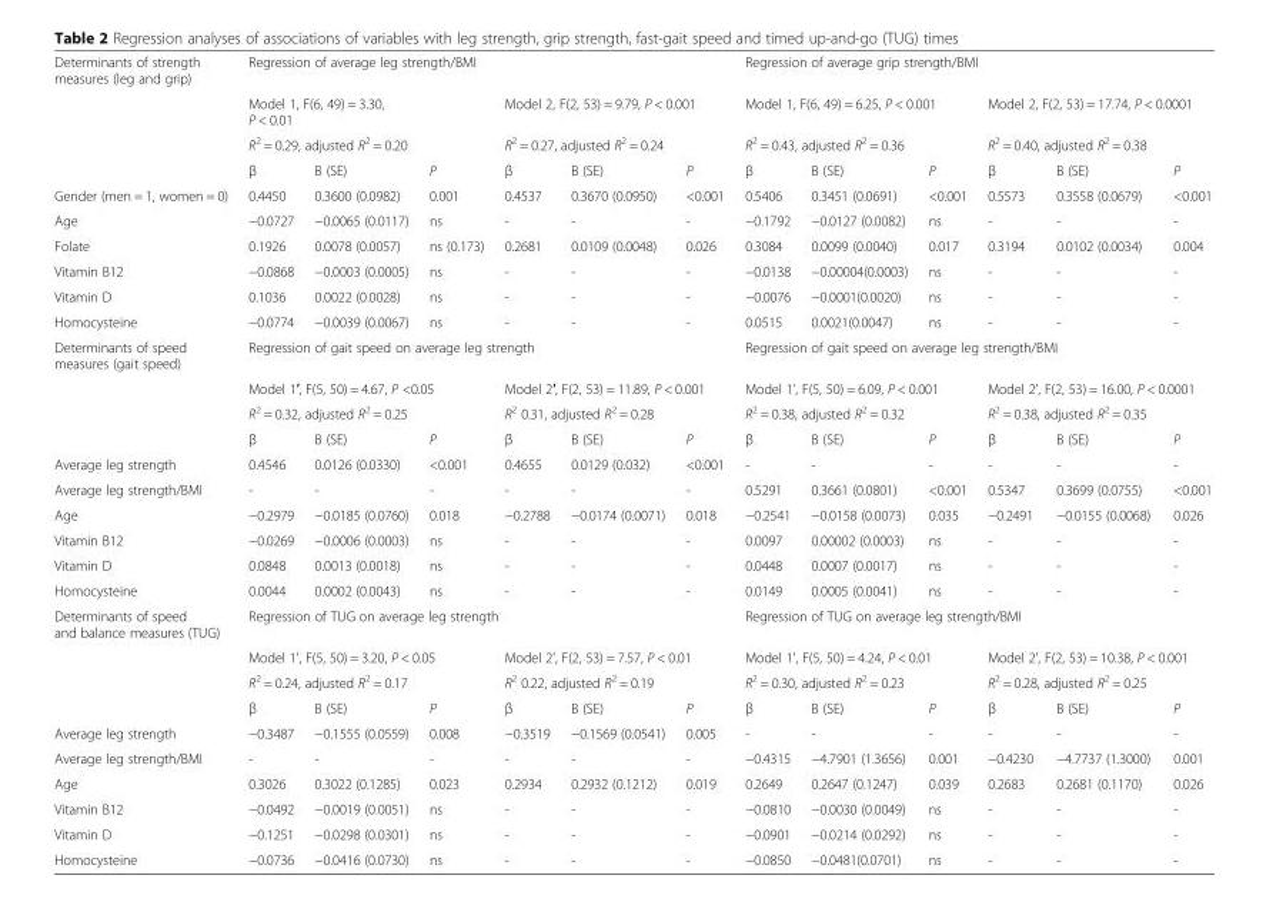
<table><tbody><tr><td rowspan="4">Determinants of strength measures (leg and grip)</td><td colspan="6">Regression of average leg strength/BMI</td><td colspan="6">Regression of average grip strength/BMI</td></tr><tr><td colspan="3">Model 1, F(6, 49) = 3.30, P &lt; 0.01</td><td colspan="3">Model 2, F(2, 53) = 9.79, P &lt; 0.001</td><td colspan="3">Model 1, F(6, 49) = 6.25, P &lt; 0.001</td><td colspan="3">Model 2, F(2, 53) = 17.74, P &lt; 0.0001</td></tr><tr><td colspan="3">R<sup>2</sup> = 0.29, adjusted R<sup>2</sup> = 0.20</td><td colspan="3">R<sup>2</sup> = 0.27, adjusted R<sup>2</sup> = 0.24</td><td colspan="3">R<sup>2</sup> = 0.43, adjusted R<sup>2</sup> = 0.36</td><td colspan="3">R<sup>2</sup> = 0.40, adjusted R<sup>2</sup> = 0.38</td></tr><tr><td>β</td><td>B (SE)</td><td>P</td><td>β</td><td>B (SE)</td><td>P</td><td>β</td><td>B (SE)</td><td>P</td><td>β</td><td>B (SE)</td><td>P</td></tr><tr><td>Gender (men = 1, women = 0)</td><td>0.4450</td><td>0.3600 (0.0982)</td><td>0.001</td><td>0.4537</td><td>0.3670 (0.0950)</td><td>&lt;0.001</td><td>0.5406</td><td>0.3451 (0.0691)</td><td>&lt;0.001</td><td>0.5573</td><td>0.3558 (0.0679)</td><td>&lt;0.001</td></tr><tr><td>Age</td><td>−0.0727</td><td>−0.0065 (0.0117)</td><td>ns</td><td>-</td><td>-</td><td>-</td><td>−0.1792</td><td>−0.0127 (0.0082)</td><td>ns</td><td>-</td><td>-</td><td>-</td></tr><tr><td>Folate</td><td>0.1926</td><td>0.0078 (0.0057)</td><td>ns (0.173)</td><td>0.2681</td><td>0.0109 (0.0048)</td><td>0.026</td><td>0.3084</td><td>0.0099 (0.0040)</td><td>0.017</td><td>0.3194</td><td>0.0102 (0.0034)</td><td>0.004</td></tr><tr><td>Vitamin B12</td><td>−0.0868</td><td>−0.0003 (0.0005)</td><td>ns</td><td>-</td><td>-</td><td>-</td><td>−0.0138</td><td>−0.00004(0.0003)</td><td>ns</td><td>-</td><td>-</td><td>-</td></tr><tr><td>Vitamin D</td><td>0.1036</td><td>0.0022 (0.0028)</td><td>ns</td><td>-</td><td>-</td><td>-</td><td>−0.0076</td><td>−0.0001(0.0020)</td><td>ns</td><td>-</td><td>-</td><td>-</td></tr><tr><td>Homocysteine</td><td>−0.0774</td><td>−0.0039 (0.0067)</td><td>ns</td><td>-</td><td>-</td><td>-</td><td>0.0515</td><td>0.0021(0.0047)</td><td>ns</td><td>-</td><td>-</td><td>-</td></tr><tr><td rowspan="4">Determinants of speed measures (gait speed)</td><td colspan="6">Regression of gait speed on average leg strength</td><td colspan="6">Regression of gait speed on average leg strength/BMI</td></tr><tr><td colspan="3">Model 1′, F(5, 50) = 4.67, P &lt;0.05</td><td colspan="3">Model 2′, F(2, 53) = 11.89, P &lt; 0.001</td><td colspan="3">Model 1’, F(5, 50) = 6.09, P &lt; 0.001</td><td colspan="3">Model 2’, F(2, 53) = 16.00, P &lt; 0.0001</td></tr><tr><td colspan="3">R<sup>2</sup> = 0.32, adjusted R<sup>2</sup> = 0.25</td><td colspan="3">R<sup>2</sup> 0.31, adjusted R<sup>2</sup> = 0.28</td><td colspan="3">R<sup>2</sup> = 0.38, adjusted R<sup>2</sup> = 0.32</td><td colspan="3">R<sup>2</sup> = 0.38, adjusted R<sup>2</sup> = 0.35</td></tr><tr><td>β</td><td>B (SE)</td><td>P</td><td>β</td><td>B (SE)</td><td>P</td><td>β</td><td>B (SE)</td><td>P</td><td>β</td><td>B (SE)</td><td>P</td></tr><tr><td>Average leg strength</td><td>0.4546</td><td>0.0126 (0.0330)</td><td>&lt;0.001</td><td>0.4655</td><td>0.0129 (0.032)</td><td>&lt;0.001</td><td>-</td><td>-</td><td>-</td><td>-</td><td>-</td><td>-</td></tr><tr><td>Average leg strength/BMI</td><td>-</td><td>-</td><td>-</td><td>-</td><td>-</td><td>-</td><td>0.5291</td><td>0.3661 (0.0801)</td><td>&lt;0.001</td><td>0.5347</td><td>0.3699 (0.0755)</td><td>&lt;0.001</td></tr><tr><td>Age</td><td>−0.2979</td><td>−0.0185 (0.0760)</td><td>0.018</td><td>−0.2788</td><td>−0.0174 (0.0071)</td><td>0.018</td><td>−0.2541</td><td>−0.0158 (0.0073)</td><td>0.035</td><td>−0.2491</td><td>−0.0155 (0.0068)</td><td>0.026</td></tr><tr><td>Vitamin B12</td><td>−0.0269</td><td>−0.0006 (0.0003)</td><td>ns</td><td>-</td><td>-</td><td>-</td><td>0.0097</td><td>0.00002 (0.0003)</td><td>ns</td><td>-</td><td>-</td><td>-</td></tr><tr><td>Vitamin D</td><td>0.0848</td><td>0.0013 (0.0018)</td><td>ns</td><td>-</td><td>-</td><td>-</td><td>0.0448</td><td>0.0007 (0.0017)</td><td>ns</td><td>-</td><td>-</td><td>-</td></tr><tr><td>Homocysteine</td><td>0.0044</td><td>0.0002 (0.0043)</td><td>ns</td><td>-</td><td>-</td><td>-</td><td>0.0149</td><td>0.0005 (0.0041)</td><td>ns</td><td>-</td><td>-</td><td>-</td></tr><tr><td rowspan="4">Determinants of speed and balance measures (TUG)</td><td colspan="6">Regression of TUG on average leg strength</td><td colspan="6">Regression of TUG on average leg strength/BMI</td></tr><tr><td colspan="3">Model 1&#x27;, F(5, 50) = 3.20, P &lt; 0.05</td><td colspan="3">Model 2&#x27;, F(2, 53) = 7.57, P &lt; 0.01</td><td colspan="3">Model 1&#x27;, F(5, 50) = 4.24, P &lt; 0.01</td><td colspan="3">Model 2&#x27;, F(2, 53) = 10.38, P &lt; 0.001</td></tr><tr><td colspan="3">R<sup>2</sup> = 0.24, adjusted R<sup>2</sup> = 0.17</td><td colspan="3">R<sup>2</sup> 0.22, adjusted R<sup>2</sup> = 0.19</td><td colspan="3">R<sup>2</sup> = 0.30, adjusted R<sup>2</sup> = 0.23</td><td colspan="3">R<sup>2</sup> = 0.28, adjusted R<sup>2</sup> = 0.25</td></tr><tr><td>β</td><td>B (SE)</td><td>P</td><td>β</td><td>B (SE)</td><td>P</td><td>β</td><td>B (SE)</td><td>P</td><td>β</td><td>B (SE)</td><td>P</td></tr><tr><td>Average leg strength</td><td>−0.3487</td><td>−0.1555 (0.0559)</td><td>0.008</td><td>−0.3519</td><td>−0.1569 (0.0541)</td><td>0.005</td><td>-</td><td>-</td><td>-</td><td>-</td><td>-</td><td>-</td></tr><tr><td>Average leg strength/BMI</td><td>-</td><td>-</td><td>-</td><td>-</td><td>-</td><td>-</td><td>−0.4315</td><td>−4.7901 (1.3656)</td><td>0.001</td><td>−0.4230</td><td>−4.7737 (1.3000)</td><td>0.001</td></tr><tr><td>Age</td><td>0.3026</td><td>0.3022 (0.1285)</td><td>0.023</td><td>0.2934</td><td>0.2932 (0.1212)</td><td>0.019</td><td>0.2649</td><td>0.2647 (0.1247)</td><td>0.039</td><td>0.2683</td><td>0.2681 (0.1170)</td><td>0.026</td></tr><tr><td>Vitamin B12</td><td>−0.0492</td><td>−0.0019 (0.0051)</td><td>ns</td><td>-</td><td>-</td><td>-</td><td>−0.0810</td><td>−0.0030 (0.0049)</td><td>ns</td><td>-</td><td>-</td><td>-</td></tr><tr><td>Vitamin D</td><td>−0.1251</td><td>−0.0298 (0.0301)</td><td>ns</td><td>-</td><td>-</td><td>-</td><td>−0.0901</td><td>−0.0214 (0.0292)</td><td>ns</td><td>-</td><td>-</td><td>-</td></tr><tr><td>Homocysteine</td><td>−0.0736</td><td>−0.0416 (0.0730)</td><td>ns</td><td>-</td><td>-</td><td>-</td><td>−0.0850</td><td>−0.0481(0.0701)</td><td>ns</td><td>-</td><td>-</td><td>-</td></tr></tbody></table>